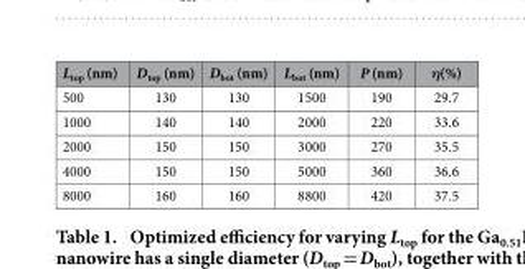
<table><thead><tr><td>L<sub>top</sub> (nm)</td><td>D<sub>top</sub> (nm)</td><td>D<sub>bot</sub> (nm)</td><td>L<sub>bot</sub> (nm)</td><td>P (nm)</td><td>η(%)</td></tr></thead><tbody><tr><td>500</td><td>130</td><td>130</td><td>1500</td><td>190</td><td>29.7</td></tr><tr><td>1000</td><td>140</td><td>140</td><td>2000</td><td>220</td><td>33.6</td></tr><tr><td>2000</td><td>150</td><td>150</td><td>3000</td><td>270</td><td>35.5</td></tr><tr><td>4000</td><td>150</td><td>150</td><td>5000</td><td>360</td><td>36.6</td></tr><tr><td>8000</td><td>160</td><td>160</td><td>8800</td><td>420</td><td>37.5</td></tr></tbody></table>